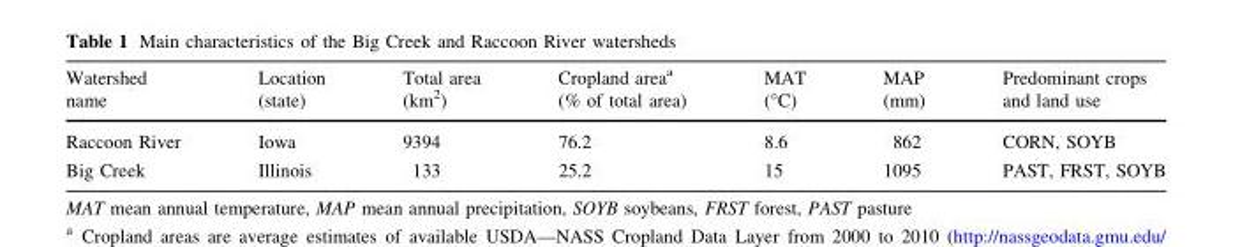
<table><thead><tr><td>Watershed name</td><td>Location (state)</td><td>Total area (km<sup>2</sup>)</td><td>Cropland area<sup>a</sup> (% of total area)</td><td>MAT (°C)</td><td>MAP (mm)</td><td>Predominant crops and land use</td></tr></thead><tbody><tr><td>Raccoon River</td><td>Iowa</td><td>9394</td><td>76.2</td><td>8.6</td><td>862</td><td>CORN, SOYB</td></tr><tr><td>Big Creek</td><td>Illinois</td><td>133</td><td>25.2</td><td>15</td><td>1095</td><td>PAST, FRST, SOYB</td></tr></tbody></table>